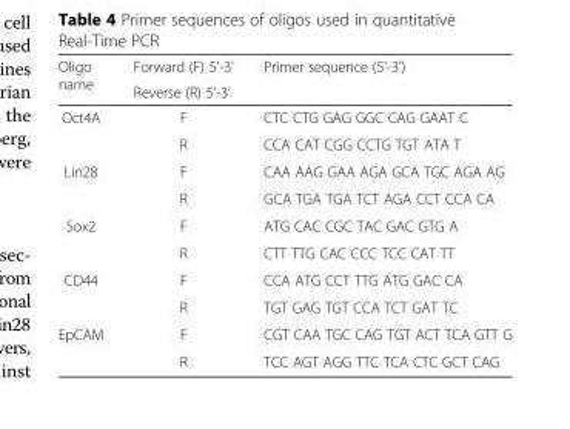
<table><thead><tr><td rowspan="2">Oligo name</td><td rowspan="2">Forward (F) 5’-3’ Reverse (R) 5’-3’</td><td rowspan="2">Primer sequence (5&#x27;-3&#x27;)</td></tr><tr></tr></thead><tbody><tr><td rowspan="2">Oct4A</td><td>F</td><td>CTC CTG GAG GGC CAG GAAT C</td></tr><tr><td>R</td><td>CCA CAT CGG CCTG TGT ATA T</td></tr><tr><td rowspan="2">Lin28</td><td>F</td><td>CAA AAG GAA AGA GCA TGC AGA AG</td></tr><tr><td>R</td><td>GCA TGA TGA TCT AGA CCT CCA CA</td></tr><tr><td rowspan="2">Sox2</td><td>F</td><td>ATG CAC CGC TAC GAC GTG A</td></tr><tr><td>R</td><td>CTT TTG CAC CCC TCC CAT TT</td></tr><tr><td rowspan="2">CD44</td><td>F</td><td>CCA ATG CCT TTG ATG GAC CA</td></tr><tr><td>R</td><td>TGT GAG TGT CCA TCT GAT TC</td></tr><tr><td rowspan="2">EpCAM</td><td>F</td><td>CGT CAA TGC CAG TGT ACT TCA GTT G</td></tr><tr><td>R</td><td>TCC AGT AGG TTC TCA CTC GCT CAG</td></tr></tbody></table>